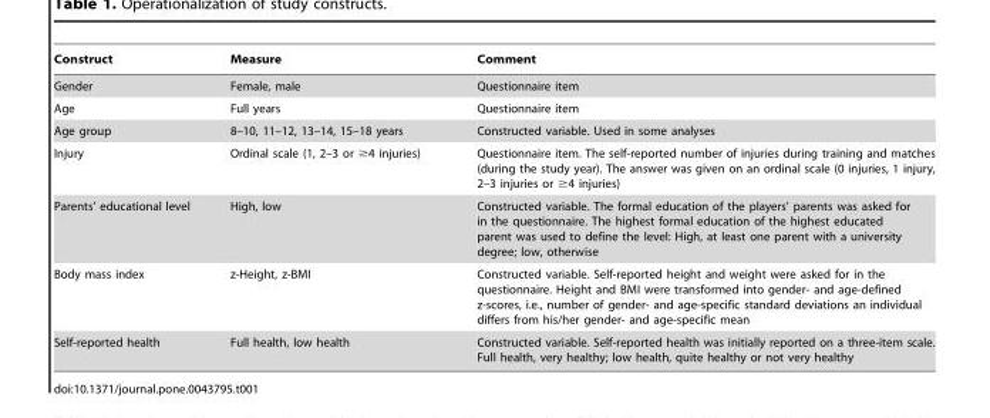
<table><thead><tr><td>Construct</td><td>Measure</td><td>Comment</td></tr></thead><tbody><tr><td>Gender</td><td>Female, male</td><td>Questionnaire item</td></tr><tr><td>Age</td><td>Full years</td><td>Questionnaire item</td></tr><tr><td>Age group</td><td>8–10, 11–12, 13–14, 15–18 years</td><td>Constructed variable. Used in some analyses</td></tr><tr><td>Injury</td><td>Ordinal scale (1, 2–3 or ≥4 injuries)</td><td>Questionnaire item. The self-reported number of injuries during training and matches (during the study year). The answer was given on an ordinal scale (0 injuries, 1 injury, 2–3 injuries or ≥4 injuries)</td></tr><tr><td>Parents’ educational level</td><td>High, low</td><td>Constructed variable. The formal education of the players’ parents was asked for in the questionnaire. The highest formal education of the highest educated parent was used to define the level: High, at least one parent with a university degree; low, otherwise</td></tr><tr><td>Body mass index</td><td>z-Height, z-BMI</td><td>Constructed variable. Self-reported height and weight were asked for in the questionnaire. Height and BMI were transformed into gender- and age-defined z-scores, i.e., number of gender- and age-specific standard deviations an individual differs from his/her gender- and age-specific mean</td></tr><tr><td>Self-reported health</td><td>Full health, low health</td><td>Constructed variable. Self-reported health was initially reported on a three-item scale. Full health, very healthy; low health, quite healthy or not very healthy</td></tr></tbody></table>